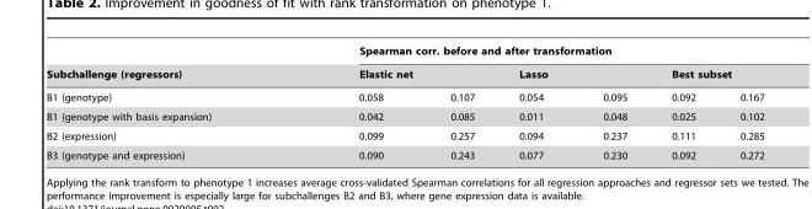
<table><thead><tr><td rowspan="3">Subchallenge (regressors) B1 (genotype)</td><td colspan="6">Spearman corr. before and after transformation</td></tr><tr><td colspan="2">Elastic net</td><td colspan="2">Lasso</td><td colspan="2">Best subset</td></tr><tr><td>0.058</td><td>0.107</td><td>0.054</td><td>0.095</td><td>0.092</td><td>0.167</td></tr></thead><tbody><tr><td>B1 (genotype with basis expansion)</td><td>0.042</td><td>0.085</td><td>0.011</td><td>0.048</td><td>0.025</td><td>0.102</td></tr><tr><td>B2 (expression)</td><td>0.099</td><td>0.257</td><td>0.094</td><td>0.237</td><td>0.111</td><td>0.285</td></tr><tr><td>B3 (genotype and expression)</td><td>0.090</td><td>0.243</td><td>0.077</td><td>0.230</td><td>0.092</td><td>0.272</td></tr></tbody></table>